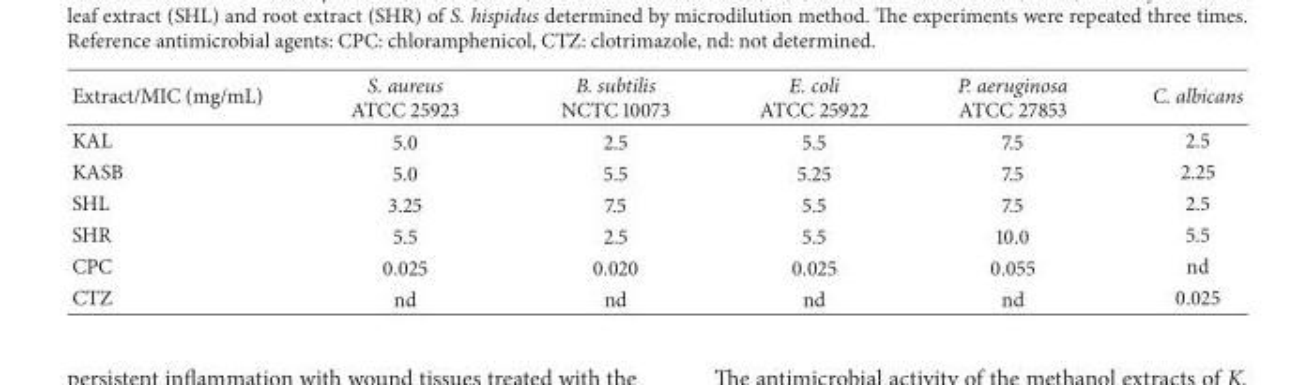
<table><thead><tr><td>Extract/MIC (mg/mL)</td><td>S. aureus ATCC 25923</td><td>B. subtilis NCTC 10073</td><td>E. coli ATCC 25922</td><td>P. aeruginosa ATCC 27853</td><td>C. albicans</td></tr></thead><tbody><tr><td>KAL</td><td>5.0</td><td>2.5</td><td>5.5</td><td>7.5</td><td>2.5</td></tr><tr><td>KASB</td><td>5.0</td><td>5.5</td><td>5.25</td><td>7.5</td><td>2.25</td></tr><tr><td>SHL</td><td>3.25</td><td>7.5</td><td>5.5</td><td>7.5</td><td>2.5</td></tr><tr><td>SHR</td><td>5.5</td><td>2.5</td><td>5.5</td><td>10.0</td><td>5.5</td></tr><tr><td>CPC</td><td>0.025</td><td>0.020</td><td>0.025</td><td>0.055</td><td>nd</td></tr><tr><td>CTZ</td><td>nd</td><td>nd</td><td>nd</td><td>nd</td><td>0.025</td></tr></tbody></table>